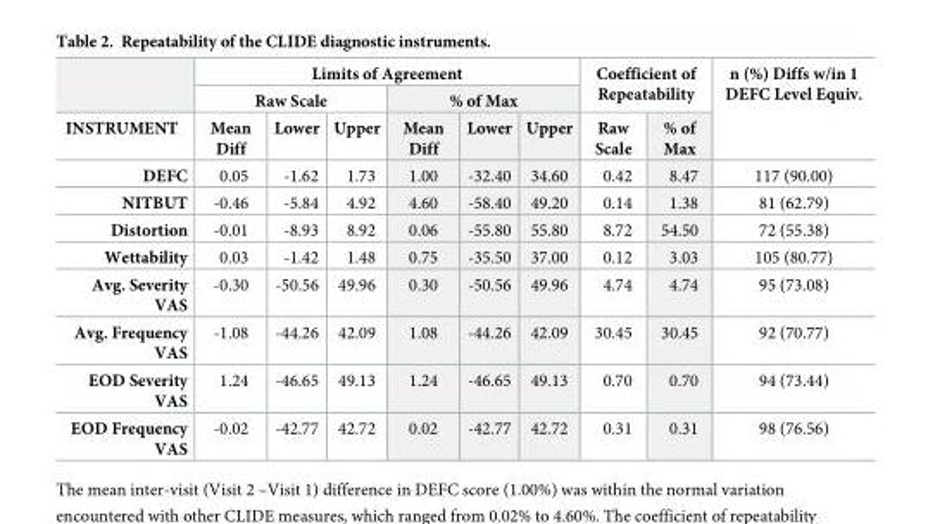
<table><thead><tr><td rowspan="3">INSTRUMENT</td><td colspan="6">Limits of Agreement</td><td rowspan="2" colspan="2">Coefficient of Repeatability</td><td rowspan="3">n (%) Diffs w/in 1 DEFC Level Equiv.</td></tr><tr><td colspan="3">Raw Scale</td><td colspan="3">% of Max</td></tr><tr><td>Mean Diff</td><td>Lower</td><td>Upper</td><td>Mean Diff</td><td>Lower</td><td>Upper</td><td>Raw Scale</td><td>% of Max</td></tr></thead><tbody><tr><td>DEFC</td><td>0.05</td><td>-1.62</td><td>1.73</td><td>1.00</td><td>-32.40</td><td>34.60</td><td>0.42</td><td>8.47</td><td>117 (90.00)</td></tr><tr><td>NITBUT</td><td>-0.46</td><td>-5.84</td><td>4.92</td><td>4.60</td><td>-58.40</td><td>49.20</td><td>0.14</td><td>1.38</td><td>81 (62.79)</td></tr><tr><td>Distortion</td><td>-0.01</td><td>-8.93</td><td>8.92</td><td>0.06</td><td>-55.80</td><td>55.80</td><td>8.72</td><td>54.50</td><td>72 (55.38)</td></tr><tr><td>Wettability</td><td>0.03</td><td>-1.42</td><td>1.48</td><td>0.75</td><td>-35.50</td><td>37.00</td><td>0.12</td><td>3.03</td><td>105 (80.77)</td></tr><tr><td>Avg. Severity VAS</td><td>-0.30</td><td>-50.56</td><td>49.96</td><td>0.30</td><td>-50.56</td><td>49.96</td><td>4.74</td><td>4.74</td><td>95 (73.08)</td></tr><tr><td>Avg. Frequency VAS</td><td>-1.08</td><td>-44.26</td><td>42.09</td><td>1.08</td><td>-44.26</td><td>42.09</td><td>30.45</td><td>30.45</td><td>92 (70.77)</td></tr><tr><td>EOD Severity VAS</td><td>1.24</td><td>-46.65</td><td>49.13</td><td>1.24</td><td>-46.65</td><td>49.13</td><td>0.70</td><td>0.70</td><td>94 (73.44)</td></tr><tr><td>EOD Frequency VAS</td><td>-0.02</td><td>-42.77</td><td>42.72</td><td>0.02</td><td>-42.77</td><td>42.72</td><td>0.31</td><td>0.31</td><td>98 (76.56)</td></tr></tbody></table>